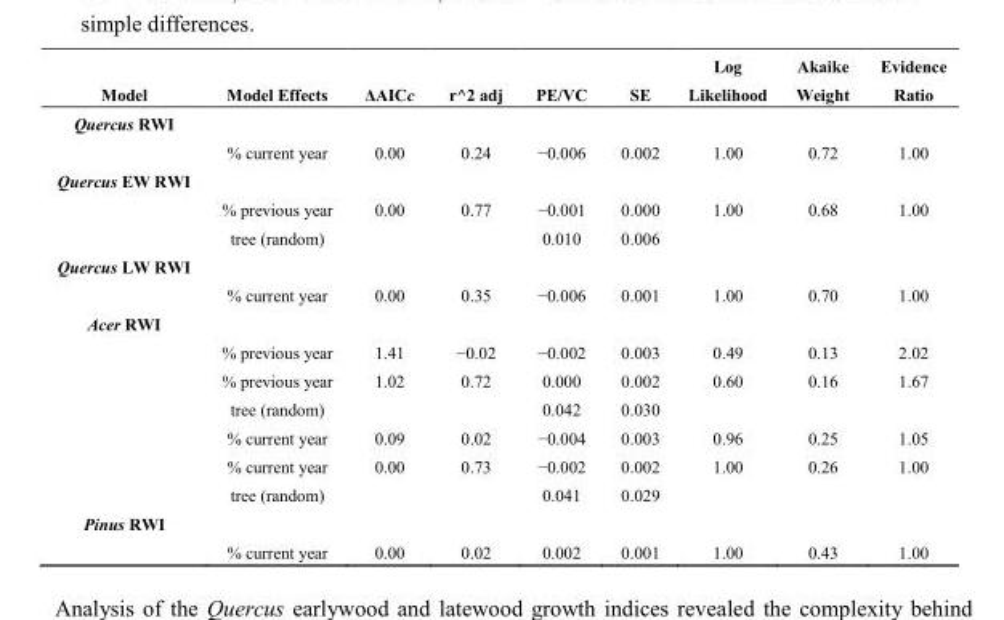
<table><thead><tr><td rowspan="2">Model</td><td rowspan="2">Model Effects</td><td rowspan="2">ΔAICc</td><td rowspan="2">r^2 adj</td><td rowspan="2">PE/VC</td><td rowspan="2">SE</td><td rowspan="2">Log Likelihood</td><td rowspan="2">Akaike Weight</td><td rowspan="2">Evidence Ratio</td></tr><tr></tr></thead><tbody><tr><td colspan="9">Quercus RWI</td></tr><tr><td></td><td>% current year</td><td>0.00</td><td>0.24</td><td>−0.006</td><td>0.002</td><td>1.00</td><td>0.72</td><td>1.00</td></tr><tr><td colspan="9">Quercus EW RWI</td></tr><tr><td></td><td>% previous year</td><td>0.00</td><td>0.77</td><td>−0.001</td><td>0.000</td><td>1.00</td><td>0.68</td><td>1.00</td></tr><tr><td></td><td>tree (random)</td><td></td><td></td><td>0.010</td><td>0.006</td><td></td><td></td><td></td></tr><tr><td colspan="9">Quercus LW RWI</td></tr><tr><td></td><td>% current year</td><td>0.00</td><td>0.35</td><td>−0.006</td><td>0.001</td><td>1.00</td><td>0.70</td><td>1.00</td></tr><tr><td colspan="9">Acer RWI</td></tr><tr><td></td><td>% previous year</td><td>1.41</td><td>−0.02</td><td>−0.002</td><td>0.003</td><td>0.49</td><td>0.13</td><td>2.02</td></tr><tr><td></td><td>% previous year</td><td>1.02</td><td>0.72</td><td>0.000</td><td>0.002</td><td>0.60</td><td>0.16</td><td>1.67</td></tr><tr><td></td><td>tree (random)</td><td></td><td></td><td>0.042</td><td>0.030</td><td></td><td></td><td></td></tr><tr><td></td><td>% current year</td><td>0.09</td><td>0.02</td><td>−0.004</td><td>0.003</td><td>0.96</td><td>0.25</td><td>1.05</td></tr><tr><td></td><td>% current year</td><td>0.00</td><td>0.73</td><td>−0.002</td><td>0.002</td><td>1.00</td><td>0.26</td><td>1.00</td></tr><tr><td></td><td>tree (random)</td><td></td><td></td><td>0.041</td><td>0.029</td><td></td><td></td><td></td></tr><tr><td colspan="9">Pinus RWI</td></tr><tr><td></td><td>% current year</td><td>0.00</td><td>0.02</td><td>0.002</td><td>0.001</td><td>1.00</td><td>0.43</td><td>1.00</td></tr></tbody></table>